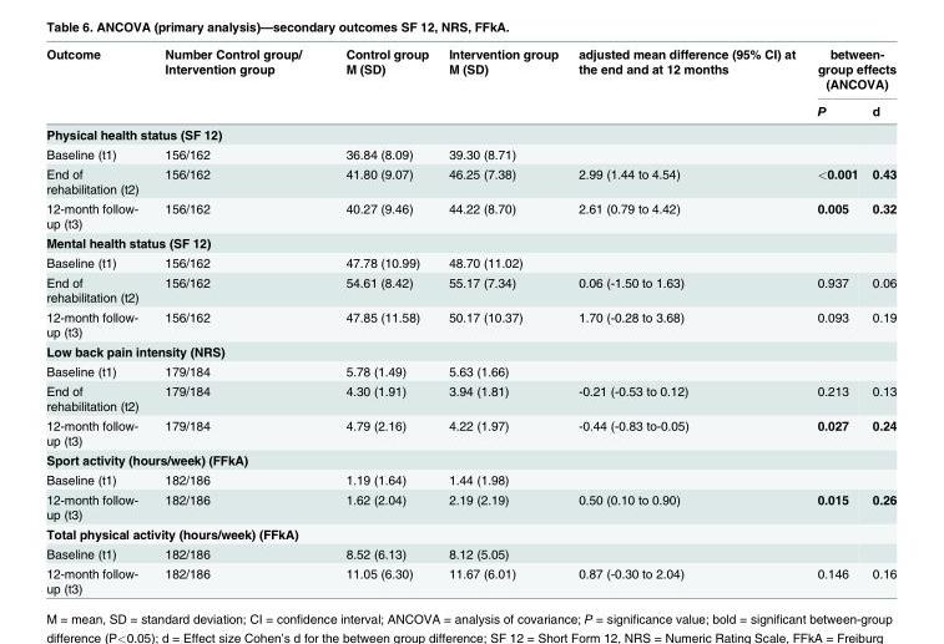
<table><thead><tr><td rowspan="2">Outcome</td><td rowspan="2">Number Control group/ Intervention group</td><td rowspan="2">Control group M (SD)</td><td rowspan="2">Intervention group M (SD)</td><td rowspan="2">adjusted mean difference (95% CI) at the end and at 12 months</td><td colspan="2">between- group effects (ANCOVA)</td></tr><tr><td>P</td><td>d</td></tr></thead><tbody><tr><td colspan="7">Physical health status (SF 12)</td></tr><tr><td>Baseline (t1)</td><td>156/162</td><td>36.84 (8.09)</td><td>39.30 (8.71)</td><td></td><td></td><td></td></tr><tr><td>End of rehabilitation (t2)</td><td>156/162</td><td>41.80 (9.07)</td><td>46.25 (7.38)</td><td>2.99 (1.44 to 4.54)</td><td>&lt;0.001</td><td>0.43</td></tr><tr><td>12-month follow- up (t3)</td><td>156/162</td><td>40.27 (9.46)</td><td>44.22 (8.70)</td><td>2.61 (0.79 to 4.42)</td><td>0.005</td><td>0.32</td></tr><tr><td colspan="7">Mental health status (SF 12)</td></tr><tr><td>Baseline (t1)</td><td>156/162</td><td>47.78 (10.99)</td><td>48.70 (11.02)</td><td></td><td></td><td></td></tr><tr><td>End of rehabilitation (t2)</td><td>156/162</td><td>54.61 (8.42)</td><td>55.17 (7.34)</td><td>0.06 (-1.50 to 1.63)</td><td>0.937</td><td>0.06</td></tr><tr><td>12-month follow- up (t3)</td><td>156/162</td><td>47.85 (11.58)</td><td>50.17 (10.37)</td><td>1.70 (-0.28 to 3.68)</td><td>0.093</td><td>0.19</td></tr><tr><td colspan="7">Low back pain intensity (NRS)</td></tr><tr><td>Baseline (t1)</td><td>179/184</td><td>5.78 (1.49)</td><td>5.63 (1.66)</td><td></td><td></td><td></td></tr><tr><td>End of rehabilitation (t2)</td><td>179/184</td><td>4.30 (1.91)</td><td>3.94 (1.81)</td><td>-0.21 (-0.53 to 0.12)</td><td>0.213</td><td>0.13</td></tr><tr><td>12-month follow- up (t3)</td><td>179/184</td><td>4.79 (2.16)</td><td>4.22 (1.97)</td><td>-0.44 (-0.83 to-0.05)</td><td>0.027</td><td>0.24</td></tr><tr><td colspan="7">Sport activity (hours/week) (FFkA)</td></tr><tr><td>Baseline (t1)</td><td>182/186</td><td>1.19 (1.64)</td><td>1.44 (1.98)</td><td></td><td></td><td></td></tr><tr><td>12-month follow- up (t3)</td><td>182/186</td><td>1.62 (2.04)</td><td>2.19 (2.19)</td><td>0.50 (0.10 to 0.90)</td><td>0.015</td><td>0.26</td></tr><tr><td colspan="7">Total physical activity (hours/week) (FFkA)</td></tr><tr><td>Baseline (t1)</td><td>182/186</td><td>8.52 (6.13)</td><td>8.12 (5.05)</td><td></td><td></td><td></td></tr><tr><td>12-month follow- up (t3)</td><td>182/186</td><td>11.05 (6.30)</td><td>11.67 (6.01)</td><td>0.87 (-0.30 to 2.04)</td><td>0.146</td><td>0.16</td></tr></tbody></table>